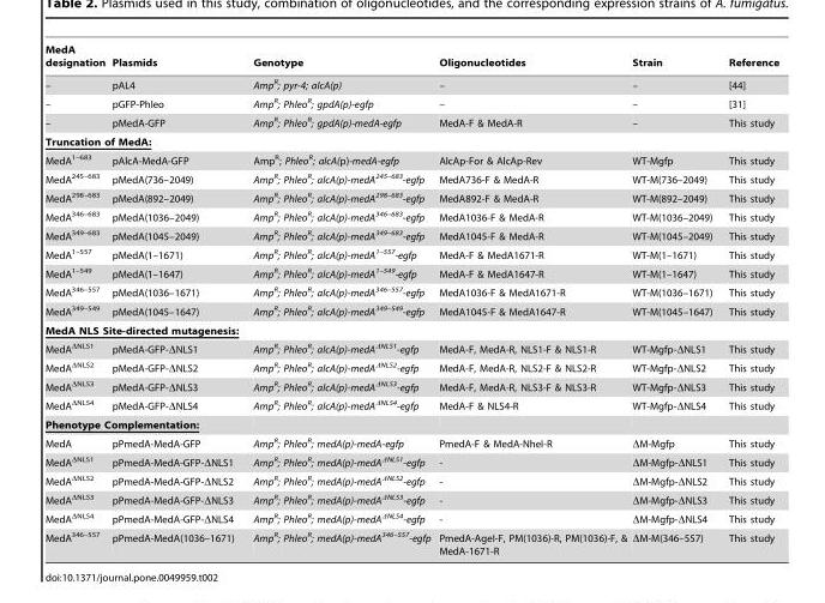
<table><thead><tr><td>MedA designation</td><td>Plasmids</td><td>Genotype</td><td>Oligonucleotides</td><td>Strain</td><td>Reference</td></tr></thead><tbody><tr><td>–</td><td>pAL4</td><td>Amp<sup>R</sup>; pyr-4; alcA(p)</td><td>–</td><td>–</td><td>[44]</td></tr><tr><td>–</td><td>pGFP-Phleo</td><td>Amp<sup>R</sup>; Phleo<sup>R</sup>; gpdA(p)-egfp</td><td>–</td><td>–</td><td>[31]</td></tr><tr><td>–</td><td>pMedA-GFP</td><td>Amp<sup>R</sup>; Phleo<sup>R</sup>; gpdA(p)-medA-egfp</td><td>MedA-F &amp; MedA-R</td><td>–</td><td>This study</td></tr><tr><td colspan="6">Truncation of MedA:</td></tr><tr><td>MedA<sup>1–683</sup></td><td>pAlcA-MedA-GFP</td><td>Amp<sup>R</sup>; Phleo<sup>R</sup>; alcA(p)-medA-egfp</td><td>AlcAp-For &amp; AlcAp-Rev</td><td>WT-Mgfp</td><td>This study</td></tr><tr><td>MedA<sup>245–683</sup></td><td>pMedA(736–2049)</td><td>Amp<sup>R</sup>; Phleo<sup>R</sup>; alcA(p)-medA<sup>245–683</sup>-egfp</td><td>MedA736-F &amp; MedA-R</td><td>WT-M(736–2049)</td><td>This study</td></tr><tr><td>MedA<sup>298–683</sup></td><td>pMedA(892–2049)</td><td>Amp<sup>R</sup>; Phleo<sup>R</sup>; alcA(p)-medA<sup>298–683</sup>-egfp</td><td>MedA892-F &amp; MedA-R</td><td>WT-M(892–2049)</td><td>This study</td></tr><tr><td>MedA<sup>346–683</sup></td><td>pMedA(1036–2049)</td><td>Amp<sup>R</sup>; Phleo<sup>R</sup>; alcA(p)-medA<sup>346–683</sup>-egfp</td><td>MedA1036-F &amp; MedA-R</td><td>WT-M(1036–2049)</td><td>This study</td></tr><tr><td>MedA<sup>349–683</sup></td><td>pMedA(1045–2049)</td><td>Amp<sup>R</sup>; Phleo<sup>R</sup>; alcA(p)-medA<sup>349–683</sup>-egfp</td><td>MedA1045-F &amp; MedA-R</td><td>WT-M(1045–2049)</td><td>This study</td></tr><tr><td>MedA<sup>1–557</sup></td><td>pMedA(1–1671)</td><td>Amp<sup>R</sup>; Phleo<sup>R</sup>; alcA(p)-medA<sup>1–557</sup>-egfp</td><td>MedA-F &amp; MedA1671-R</td><td>WT-M(1–1671)</td><td>This study</td></tr><tr><td>MedA<sup>1–549</sup></td><td>pMedA(1–1647)</td><td>Amp<sup>R</sup>; Phleo<sup>R</sup>; alcA(p)-medA<sup>1–549</sup>-egfp</td><td>MedA-F &amp; MedA1647-R</td><td>WT-M(1–1647)</td><td>This study</td></tr><tr><td>MedA<sup>346–557</sup></td><td>pMedA(1036–1671)</td><td>Amp<sup>R</sup>; Phleo<sup>R</sup>; alcA(p)-medA<sup>346–557</sup>-egfp</td><td>MedA1036-F &amp; MedA1671-R</td><td>WT-M(1036–1671)</td><td>This study</td></tr><tr><td>MedA<sup>349–549</sup></td><td>pMedA(1045–1647)</td><td>Amp<sup>R</sup>; Phleo<sup>R</sup>; alcA(p)-medA<sup>349–549</sup>-egfp</td><td>MedA1045-F &amp; MedA1647-R</td><td>WT-M(1045–1647)</td><td>This study</td></tr><tr><td colspan="6">MedA NLS Site-directed mutagenesis:</td></tr><tr><td>MedA<sup>ΔNLS1</sup></td><td>pMedA-GFP-ΔNLS1</td><td>Amp<sup>R</sup>; Phleo<sup>R</sup>; alcA(p)-medA<sup>ΔNLS1</sup>-egfp</td><td>MedA-F, MedA-R, NLS1-F &amp; NLS1-R</td><td>WT-Mgfp-ΔNLS1</td><td>This study</td></tr><tr><td>MedA<sup>ΔNLS2</sup></td><td>pMedA-GFP-ΔNLS2</td><td>Amp<sup>R</sup>; Phleo<sup>R</sup>; alcA(p)-medA<sup>ΔNLS2</sup>-egfp</td><td>MedA-F, MedA-R, NLS2-F &amp; NLS2-R</td><td>WT-Mgfp-ΔNLS2</td><td>This study</td></tr><tr><td>MedA<sup>ΔNLS3</sup></td><td>pMedA-GFP-ΔNLS3</td><td>Amp<sup>R</sup>; Phleo<sup>R</sup>; alcA(p)-medA<sup>ΔNLS3</sup>-egfp</td><td>MedA-F, MedA-R, NLS3-F &amp; NLS3-R</td><td>WT-Mgfp-ΔNLS3</td><td>This study</td></tr><tr><td>MedA<sup>ΔNLS4</sup></td><td>pMedA-GFP-ΔNLS4</td><td>Amp<sup>R</sup>; Phleo<sup>R</sup>; alcA(p)-medA<sup>ΔNLS4</sup>-egfp</td><td>MedA-F &amp; NLS4-R</td><td>WT-Mgfp-ΔNLS4</td><td>This study</td></tr><tr><td colspan="6">Phenotype Complementation:</td></tr><tr><td>MedA</td><td>pPmedA-MedA-GFP</td><td>Amp<sup>R</sup>; Phleo<sup>R</sup>; medA(p)-medA-egfp</td><td>PmedA-F &amp; MedA-NheI-R</td><td>ΔM-Mgfp</td><td>This study</td></tr><tr><td>MedA<sup>ΔNLS1</sup></td><td>pPmedA-MedA-GFP-ΔNLS1</td><td>Amp<sup>R</sup>; Phleo<sup>R</sup>; medA(p)-medA<sup>ΔNLS1</sup>-egfp</td><td>-</td><td>ΔM-Mgfp-ΔNLS1</td><td>This study</td></tr><tr><td>MedA<sup>ΔNLS2</sup></td><td>pPmedA-MedA-GFP-ΔNLS2</td><td>Amp<sup>R</sup>; Phleo<sup>R</sup>; medA(p)-medA<sup>ΔNLS2</sup>-egfp</td><td>-</td><td>ΔM-Mgfp-ΔNLS2</td><td>This study</td></tr><tr><td>MedA<sup>ΔNLS3</sup></td><td>pPmedA-MedA-GFP-ΔNLS3</td><td>Amp<sup>R</sup>; Phleo<sup>R</sup>; medA(p)-medA<sup>ΔNLS3</sup>-egfp</td><td>-</td><td>ΔM-Mgfp-ΔNLS3</td><td>This study</td></tr><tr><td>MedA<sup>ΔNLS4</sup></td><td>pPmedA-MedA-GFP-ΔNLS4</td><td>Amp<sup>R</sup>; Phleo<sup>R</sup>; medA(p)-medA<sup>ΔNLS4</sup>-egfp</td><td>-</td><td>ΔM-Mgfp-ΔNLS4</td><td>This study</td></tr><tr><td>MedA<sup>346–557</sup></td><td>pPmedA-MedA(1036–1671)</td><td>Amp<sup>R</sup>; Phleo<sup>R</sup>; medA(p)-medA<sup>346–557</sup>-egfp</td><td>PmedA-AgeI-F, PM(1036)-R, PM(1036)-F, &amp; MedA-1671-R</td><td>ΔM-M(346–557)</td><td>This study</td></tr></tbody></table>